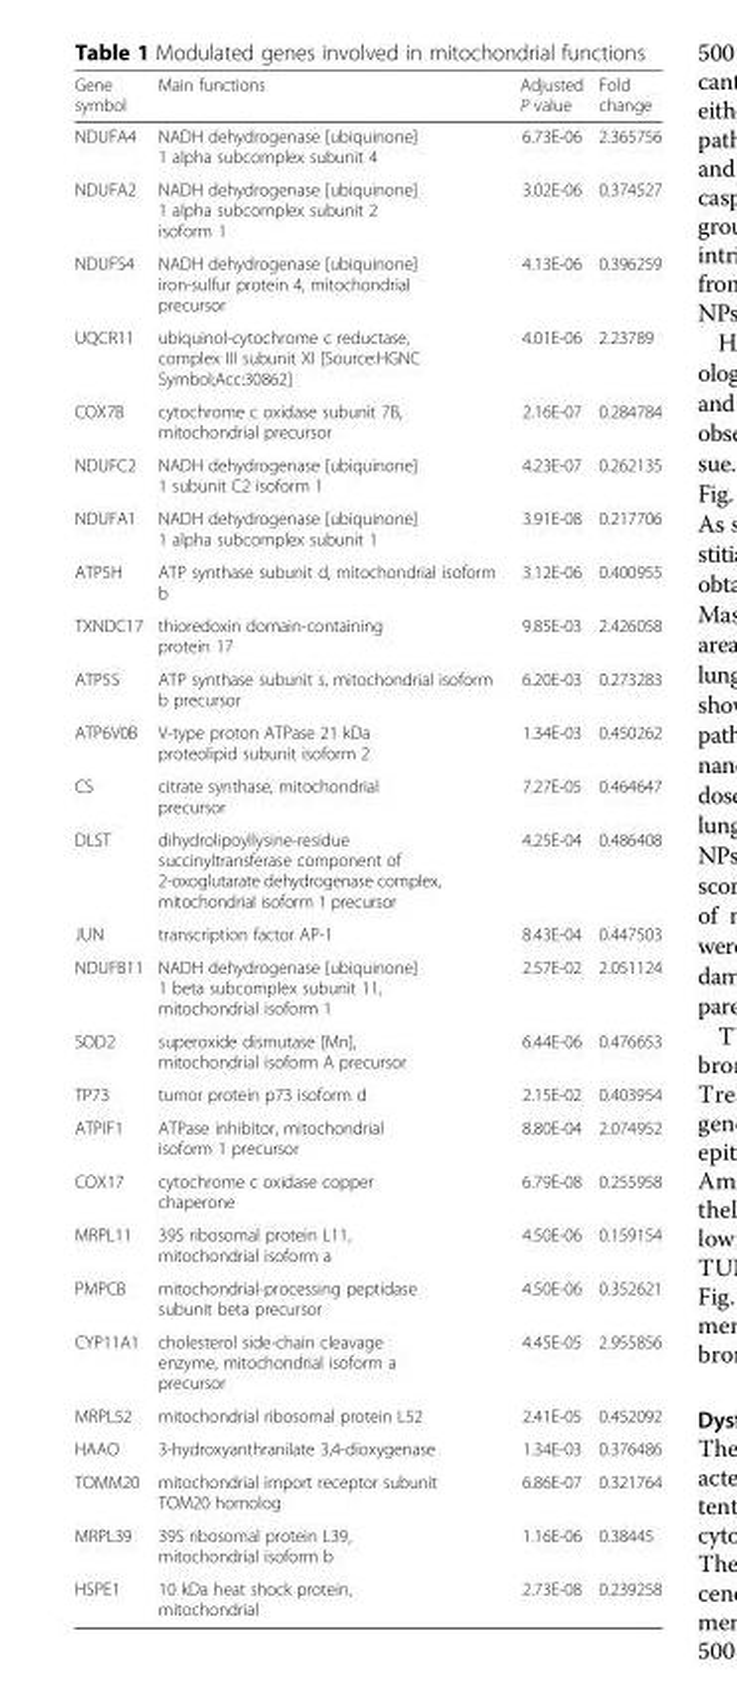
<table><thead><tr><td>Gene symbol</td><td>Main functions</td><td>Adjusted P value</td><td>Fold change</td></tr></thead><tbody><tr><td>NDUFA4</td><td>NADH dehydrogenase [ubiquinone] 1 alpha subcomplex subunit 4</td><td>6.73E-06</td><td>2.365756</td></tr><tr><td>NDUFA2</td><td>NADH dehydrogenase [ubiquinone] 1 alpha subcomplex subunit 2 isoform 1</td><td>3.02E-06</td><td>0.374527</td></tr><tr><td>NDUFS4</td><td>NADH dehydrogenase [ubiquinone] iron-sulfur protein 4, mitochondrial precursor</td><td>4.13E-06</td><td>0.396259</td></tr><tr><td>UQCR11</td><td>ubiquinol-cytochrome c reductase, complex III subunit XI [Source:HGNC Symbol;Acc:30862]</td><td>4.01E-06</td><td>2.23789</td></tr><tr><td>COX7B</td><td>cytochrome c oxidase subunit 7B, mitochondrial precursor</td><td>2.16E-07</td><td>0.284784</td></tr><tr><td>NDUFC2</td><td>NADH dehydrogenase [ubiquinone] 1 subunit C2 isoform 1</td><td>4.23E-07</td><td>0.262135</td></tr><tr><td>NDUFA1</td><td>NADH dehydrogenase [ubiquinone] 1 alpha subcomplex subunit 1</td><td>3.91E-08</td><td>0.217706</td></tr><tr><td>ATP5H</td><td>ATP synthase subunit d, mitochondrial isoform b</td><td>3.12E-06</td><td>0.400955</td></tr><tr><td>TXNDC17</td><td>thioredoxin domain-containing protein 17</td><td>9.85E-03</td><td>2.426058</td></tr><tr><td>ATP5S</td><td>ATP synthase subunit s, mitochondrial isoform b precursor</td><td>6.20E-03</td><td>0.273283</td></tr><tr><td>ATP6V0B</td><td>V-type proton ATPase 21 kDa proteolipid subunit isoform 2</td><td>1.34E-03</td><td>0.450262</td></tr><tr><td>CS</td><td>citrate synthase, mitochondrial precursor</td><td>7.27E-05</td><td>0.464647</td></tr><tr><td>DLST</td><td>dihydrolipoyllysine-residue succinyltransferase component of 2-oxoglutarate dehydrogenase complex, mitochondrial isoform 1 precursor</td><td>4.25E-04</td><td>0.486408</td></tr><tr><td>JUN</td><td>transcription factor AP-1</td><td>8.43E-04</td><td>0.447503</td></tr><tr><td>NDUFB11</td><td>NADH dehydrogenase [ubiquinone] 1 beta subcomplex subunit 11, mitochondrial isoform 1</td><td>2.57E-02</td><td>2.051124</td></tr><tr><td>SOD2</td><td>superoxide dismutase [Mn], mitochondrial isoform A precursor</td><td>6.44E-06</td><td>0.476653</td></tr><tr><td>TP73</td><td>tumor protein p73 isoform d</td><td>2.15E-02</td><td>0.403954</td></tr><tr><td>ATPIF1</td><td>ATPase inhibitor, mitochondrial isoform 1 precursor</td><td>8.80E-04</td><td>2.074952</td></tr><tr><td>COX17</td><td>cytochrome c oxidase copper chaperone</td><td>6.79E-08</td><td>0.255958</td></tr><tr><td>MRPL11</td><td>39S ribosomal protein L11, mitochondrial isoform a</td><td>4.50E-06</td><td>0.159154</td></tr><tr><td>PMPCB</td><td>mitochondrial-processing peptidase subunit beta precursor</td><td>4.50E-06</td><td>0.352621</td></tr><tr><td>CYP11A1</td><td>cholesterol side-chain cleavage enzyme, mitochondrial isoform a precursor</td><td>4.45E-05</td><td>2.955856</td></tr><tr><td>MRPL52</td><td>mitochondrial ribosomal protein L52</td><td>2.41E-05</td><td>0.452092</td></tr><tr><td>HAAO</td><td>3-hydroxyanthranilate 3,4-dioxygenase</td><td>1.34E-03</td><td>0.376486</td></tr><tr><td>TOMM20</td><td>mitochondrial import receptor subunit TOM20 homolog</td><td>6.86E-07</td><td>0.321764</td></tr><tr><td>MRPL39</td><td>39S ribosomal protein L39, mitochondrial isoform b</td><td>1.16E-06</td><td>0.38445</td></tr><tr><td>HSPE1</td><td>10 kDa heat shock protein, mitochondrial</td><td>2.73E-08</td><td>0.239258</td></tr></tbody></table>